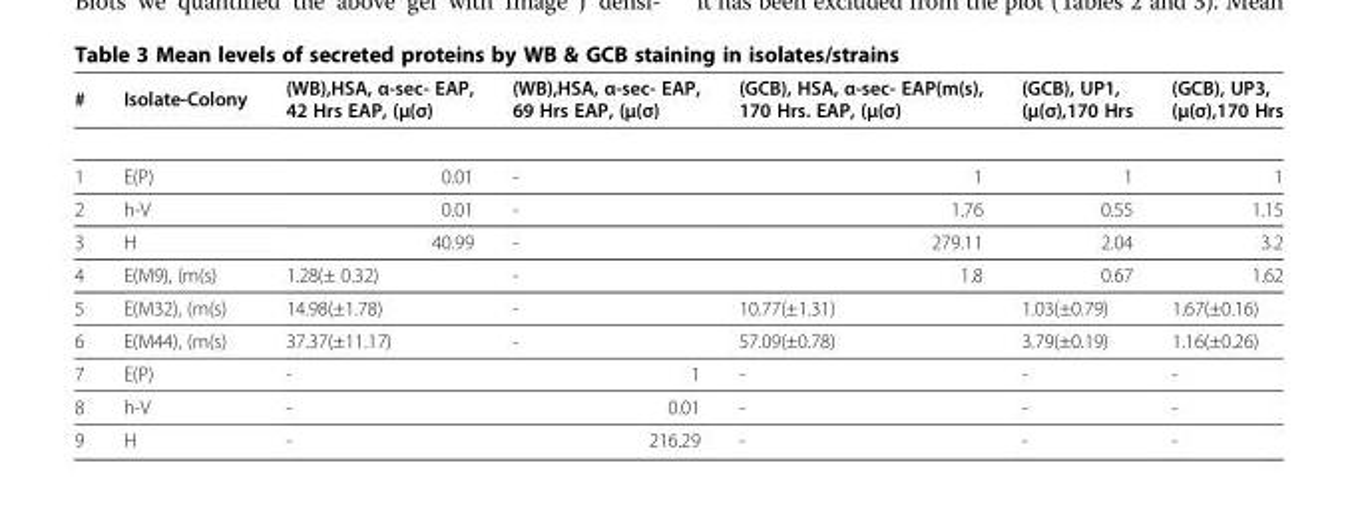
<table><thead><tr><td>#</td><td>Isolate-Colony</td><td>(WB),HSA, α-sec- EAP, 42 Hrs EAP, (μ(σ)</td><td>(WB),HSA, α-sec- EAP, 69 Hrs EAP, (μ(σ)</td><td>(GCB), HSA, α-sec- EAP(m(s), 170 Hrs. EAP, (μ(σ)</td><td>(GCB), UP1, (μ(σ),170 Hrs</td><td>(GCB), UP3, (μ(σ),170 Hrs</td></tr></thead><tbody><tr><td>1</td><td>E(P)</td><td>0.01</td><td>-</td><td>1</td><td>1</td><td>1</td></tr><tr><td>2</td><td>h-V</td><td>0.01</td><td>-</td><td>1.76</td><td>0.55</td><td>1.15</td></tr><tr><td>3</td><td>H</td><td>40.99</td><td>-</td><td>279.11</td><td>2.04</td><td>3.2</td></tr><tr><td>4</td><td>E(M9), (m(s)</td><td>1.28(± 0.32)</td><td>-</td><td>1.8</td><td>0.67</td><td>1.62</td></tr><tr><td>5</td><td>E(M32), (m(s)</td><td>14.98(±1.78)</td><td>-</td><td>10.77(±1.31)</td><td>1.03(±0.79)</td><td>1.67(±0.16)</td></tr><tr><td>6</td><td>E(M44), (m(s)</td><td>37.37(±11.17)</td><td>-</td><td>57.09(±0.78)</td><td>3.79(±0.19)</td><td>1.16(±0.26)</td></tr><tr><td>7</td><td>E(P)</td><td>-</td><td>1</td><td>-</td><td>-</td><td>-</td></tr><tr><td>8</td><td>h-V</td><td>-</td><td>0.01</td><td>-</td><td>-</td><td>-</td></tr><tr><td>9</td><td>H</td><td>-</td><td>216.29</td><td>-</td><td>-</td><td>-</td></tr></tbody></table>